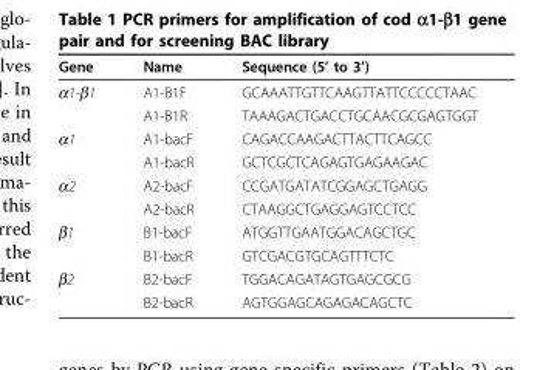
<table><thead><tr><td>Gene</td><td>Name</td><td>Sequence (5’ to 3’)</td></tr></thead><tbody><tr><td rowspan="2">α1-β1</td><td>A1-B1F</td><td>GCAAATTGTTCAAGTTATTCCCCCTAAC</td></tr><tr><td>A1-B1R</td><td>TAAAGACTGACCTGCAACGCGAGTGGT</td></tr><tr><td rowspan="2">α1</td><td>A1-bacF</td><td>CAGACCAAGACTTACTTCAGCC</td></tr><tr><td>A1-bacR</td><td>GCTCGCTCAGAGTGAGAAGAC</td></tr><tr><td rowspan="2">α2</td><td>A2-bacF</td><td>CCGATGATATCGGAGCTGAGG</td></tr><tr><td>A2-bacR</td><td>CTAAGGCTGAGGAGTCCTCC</td></tr><tr><td rowspan="2">β1</td><td>B1-bacF</td><td>ATGGTTGAATGGACAGCTGC</td></tr><tr><td>B1-bacR</td><td>GTCGACGTGCAGTTTCTC</td></tr><tr><td rowspan="2">β2</td><td>B2-bacF</td><td>TGGACAGATAGTGAGCGCG</td></tr><tr><td>B2-bacR</td><td>AGTGGAGCAGAGACAGCTC</td></tr></tbody></table>